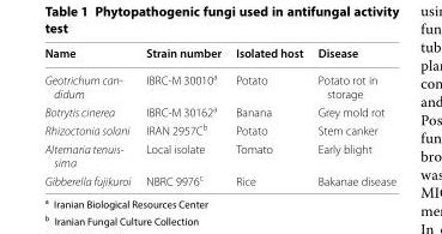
<table><thead><tr><td>Name</td><td>Strain number</td><td>Isolated host</td><td>Disease</td></tr></thead><tbody><tr><td>Geotrichum can- didum</td><td>IBRC-M 30010<sup>a</sup></td><td>Potato</td><td>Potato rot in storage</td></tr><tr><td>Botrytis cinerea</td><td>IBRC-M 30162<sup>a</sup></td><td>Banana</td><td>Grey mold rot</td></tr><tr><td>Rhizoctonia solani</td><td>IRAN 2957C<sup>b</sup></td><td>Potato</td><td>Stem canker</td></tr><tr><td>Alternaria tenuis- sima</td><td>Local isolate</td><td>Tomato</td><td>Early blight</td></tr><tr><td>Gibberella fujikuroi</td><td>NBRC 9976<sup>c</sup></td><td>Rice</td><td>Bakanae disease</td></tr></tbody></table>